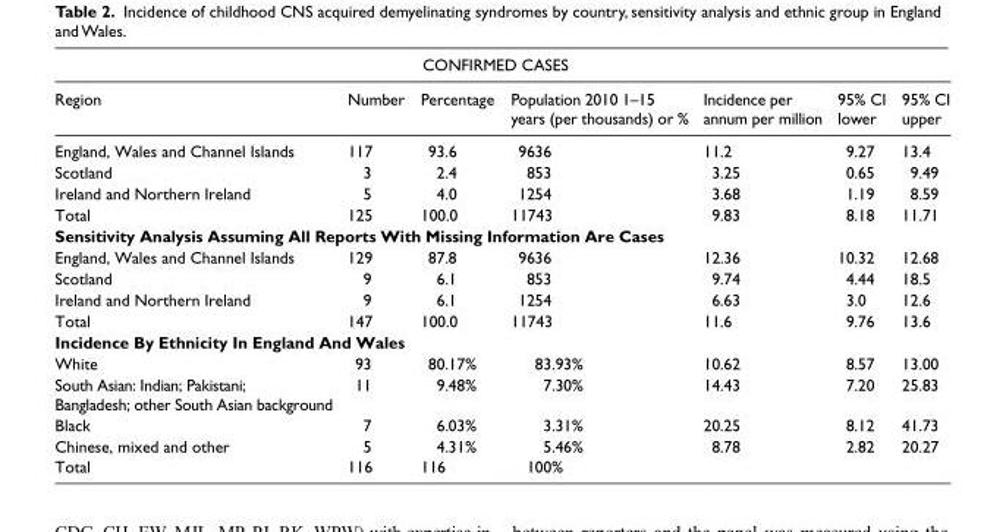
<table><thead><tr><td colspan="7">CONFIRMED CASES</td></tr><tr><td>Region</td><td>Number</td><td>Percentage</td><td>Population 2010 1–15 years (per thousands) or %</td><td>Incidence per annum per million</td><td>95% CI lower</td><td>95% CI upper</td></tr></thead><tbody><tr><td>England, Wales and Channel Islands</td><td>117</td><td>93.6</td><td>9636</td><td>11.2</td><td>9.27</td><td>13.4</td></tr><tr><td>Scotland</td><td>3</td><td>2.4</td><td>853</td><td>3.25</td><td>0.65</td><td>9.49</td></tr><tr><td>Ireland and Northern Ireland</td><td>5</td><td>4.0</td><td>1254</td><td>3.68</td><td>1.19</td><td>8.59</td></tr><tr><td>Total</td><td>125</td><td>100.0</td><td>11743</td><td>9.83</td><td>8.18</td><td>11.71</td></tr><tr><td colspan="7">Sensitivity Analysis Assuming All Reports With Missing Information Are Cases</td></tr><tr><td>England, Wales and Channel Islands</td><td>129</td><td>87.8</td><td>9636</td><td>12.36</td><td>10.32</td><td>12.68</td></tr><tr><td>Scotland</td><td>9</td><td>6.1</td><td>853</td><td>9.74</td><td>4.44</td><td>18.5</td></tr><tr><td>Ireland and Northern Ireland</td><td>9</td><td>6.1</td><td>1254</td><td>6.63</td><td>3.0</td><td>12.6</td></tr><tr><td>Total</td><td>147</td><td>100.0</td><td>11743</td><td>11.6</td><td>9.76</td><td>13.6</td></tr><tr><td colspan="7">Incidence By Ethnicity In England And Wales</td></tr><tr><td>White</td><td>93</td><td>80.17%</td><td>83.93%</td><td>10.62</td><td>8.57</td><td>13.00</td></tr><tr><td>South Asian: Indian; Pakistani; Bangladesh; other South Asian background</td><td>11</td><td>9.48%</td><td>7.30%</td><td>14.43</td><td>7.20</td><td>25.83</td></tr><tr><td>Black</td><td>7</td><td>6.03%</td><td>3.31%</td><td>20.25</td><td>8.12</td><td>41.73</td></tr><tr><td>Chinese, mixed and other</td><td>5</td><td>4.31%</td><td>5.46%</td><td>8.78</td><td>2.82</td><td>20.27</td></tr><tr><td>Total</td><td>116</td><td>116</td><td>100%</td><td></td><td></td><td></td></tr></tbody></table>